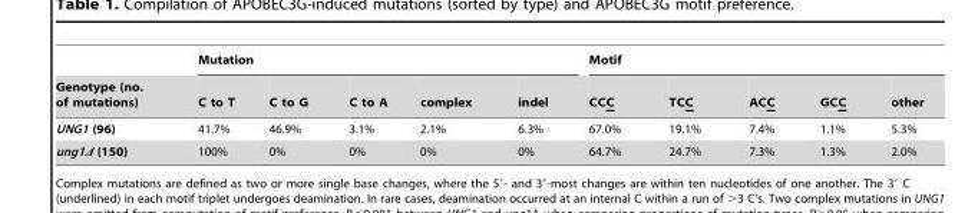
<table><thead><tr><td rowspan="2">Genotype (no. of mutations)</td><td colspan="5">Mutation</td><td colspan="5">Motif</td></tr><tr><td>C to T</td><td>C to G</td><td>C to A</td><td>complex</td><td>indel</td><td>CCC</td><td>TCC</td><td>ACC</td><td>GCC</td><td>other</td></tr></thead><tbody><tr><td>UNG1 (96)</td><td>41.7%</td><td>46.9%</td><td>3.1%</td><td>2.1%</td><td>6.3%</td><td>67.0%</td><td>19.1%</td><td>7.4%</td><td>1.1%</td><td>5.3%</td></tr><tr><td>ung1Δ (150)</td><td>100%</td><td>0%</td><td>0%</td><td>0%</td><td>0%</td><td>64.7%</td><td>24.7%</td><td>7.3%</td><td>1.3%</td><td>2.0%</td></tr></tbody></table>